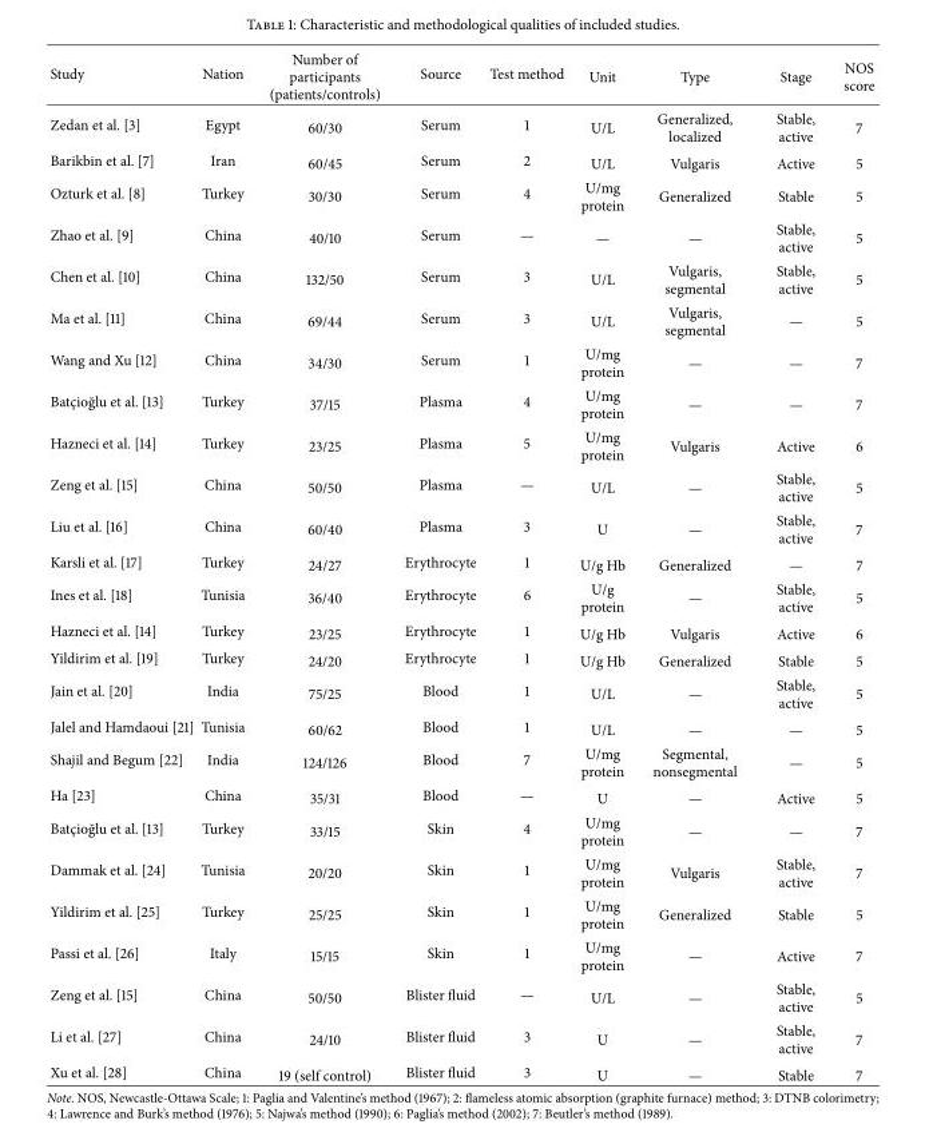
<table><thead><tr><td>Study</td><td>Nation</td><td>Number of participants (patients/controls)</td><td>Source</td><td>Test method</td><td>Unit</td><td>Type</td><td>Stage</td><td>NOS score</td></tr></thead><tbody><tr><td>Zedan et al. [3]</td><td>Egypt</td><td>60/30</td><td>Serum</td><td>1</td><td>U/L</td><td>Generalized, localized</td><td>Stable, active</td><td>7</td></tr><tr><td>Barikbin et al. [7]</td><td>Iran</td><td>60/45</td><td>Serum</td><td>2</td><td>U/L</td><td>Vulgaris</td><td>Active</td><td>5</td></tr><tr><td>Ozturk et al. [8]</td><td>Turkey</td><td>30/30</td><td>Serum</td><td>4</td><td>U/mg protein</td><td>Generalized</td><td>Stable</td><td>5</td></tr><tr><td>Zhao et al. [9]</td><td>China</td><td>40/10</td><td>Serum</td><td>—</td><td>—</td><td>—</td><td>Stable, active</td><td>5</td></tr><tr><td>Chen et al. [10]</td><td>China</td><td>132/50</td><td>Serum</td><td>3</td><td>U/L</td><td>Vulgaris, segmental</td><td>Stable, active</td><td>5</td></tr><tr><td>Ma et al. [11]</td><td>China</td><td>69/44</td><td>Serum</td><td>3</td><td>U/L</td><td>Vulgaris, segmental</td><td>—</td><td>5</td></tr><tr><td>Wang and Xu [12]</td><td>China</td><td>34/30</td><td>Serum</td><td>1</td><td>U/mg protein</td><td>—</td><td>—</td><td>7</td></tr><tr><td>Batc¸io˘glu et al. [13]</td><td>Turkey</td><td>37/15</td><td>Plasma</td><td>4</td><td>U/mg protein</td><td>—</td><td>—</td><td>7</td></tr><tr><td>Hazneci et al. [14]</td><td>Turkey</td><td>23/25</td><td>Plasma</td><td>5</td><td>U/mg protein</td><td>Vulgaris</td><td>Active</td><td>6</td></tr><tr><td>Zeng et al. [15]</td><td>China</td><td>50/50</td><td>Plasma</td><td>—</td><td>U/L</td><td>—</td><td>Stable, active</td><td>5</td></tr><tr><td>Liu et al. [16]</td><td>China</td><td>60/40</td><td>Plasma</td><td>3</td><td>U</td><td>—</td><td>Stable, active</td><td>7</td></tr><tr><td>Karsli et al. [17]</td><td>Turkey</td><td>24/27</td><td>Erythrocyte</td><td>1</td><td>U/g Hb</td><td>Generalized</td><td>—</td><td>7</td></tr><tr><td>Ines et al. [18]</td><td>Tunisia</td><td>36/40</td><td>Erythrocyte</td><td>6</td><td>U/g protein</td><td>—</td><td>Stable, active</td><td>5</td></tr><tr><td>Hazneci et al. [14]</td><td>Turkey</td><td>23/25</td><td>Erythrocyte</td><td>1</td><td>U/g Hb</td><td>Vulgaris</td><td>Active</td><td>6</td></tr><tr><td>Yildirim et al. [19]</td><td>Turkey</td><td>24/20</td><td>Erythrocyte</td><td>1</td><td>U/g Hb</td><td>Generalized</td><td>Stable</td><td>5</td></tr><tr><td>Jain et al. [20]</td><td>India</td><td>75/25</td><td>Blood</td><td>1</td><td>U/L</td><td>—</td><td>Stable, active</td><td>5</td></tr><tr><td>Jalel and Hamdaoui [21]</td><td>Tunisia</td><td>60/62</td><td>Blood</td><td>1</td><td>U/L</td><td>—</td><td>—</td><td>5</td></tr><tr><td>Shajil and Begum [22]</td><td>India</td><td>124/126</td><td>Blood</td><td>7</td><td>U/mg protein</td><td>Segmental, nonsegmental</td><td>—</td><td>5</td></tr><tr><td>Ha [23]</td><td>China</td><td>35/31</td><td>Blood</td><td>—</td><td>U</td><td>—</td><td>Active</td><td>5</td></tr><tr><td>Batc¸io˘glu et al. [13]</td><td>Turkey</td><td>33/15</td><td>Skin</td><td>4</td><td>U/mg protein</td><td>—</td><td>—</td><td>7</td></tr><tr><td>Dammak et al. [24]</td><td>Tunisia</td><td>20/20</td><td>Skin</td><td>1</td><td>U/mg protein</td><td>Vulgaris</td><td>Stable, active</td><td>7</td></tr><tr><td>Yildirim et al. [25]</td><td>Turkey</td><td>25/25</td><td>Skin</td><td>1</td><td>U/mg protein</td><td>Generalized</td><td>Stable</td><td>5</td></tr><tr><td>Passi et al. [26]</td><td>Italy</td><td>15/15</td><td>Skin</td><td>1</td><td>U/mg protein</td><td>—</td><td>Active</td><td>7</td></tr><tr><td>Zeng et al. [15]</td><td>China</td><td>50/50</td><td>Blister fluid</td><td>—</td><td>U/L</td><td>—</td><td>Stable, active</td><td>5</td></tr><tr><td>Li et al. [27]</td><td>China</td><td>24/10</td><td>Blister fluid</td><td>3</td><td>U</td><td>—</td><td>Stable, active</td><td>7</td></tr><tr><td>Xu et al. [28]</td><td>China</td><td>19 (self control)</td><td>Blister fluid</td><td>3</td><td>U</td><td>—</td><td>Stable</td><td>7</td></tr></tbody></table>